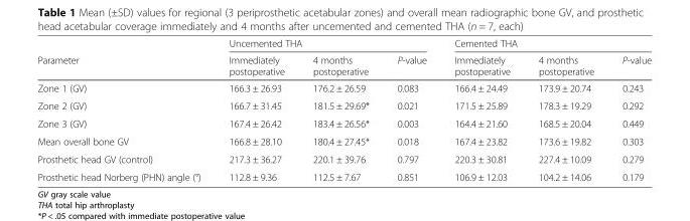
<table><thead><tr><td rowspan="2">Parameter</td><td colspan="3">Uncemented THA</td><td colspan="3">Cemented THA</td></tr><tr><td>Immediately postoperative</td><td>4 months postoperative</td><td>P-value</td><td>Immediately postoperative</td><td>4 months postoperative</td><td>P-value</td></tr></thead><tbody><tr><td>Zone 1 (GV)</td><td>166.3 ± 26.93</td><td>176.2 ± 26.59</td><td>0.083</td><td>166.4 ± 24.49</td><td>173.9 ± 20.74</td><td>0.243</td></tr><tr><td>Zone 2 (GV)</td><td>166.7 ± 31.45</td><td>181.5 ± 29.69*</td><td>0.021</td><td>171.5 ± 25.89</td><td>178.3 ± 19.29</td><td>0.292</td></tr><tr><td>Zone 3 (GV)</td><td>167.4 ± 26.42</td><td>183.4 ± 26.56*</td><td>0.003</td><td>164.4 ± 21.60</td><td>168.5 ± 20.04</td><td>0.449</td></tr><tr><td>Mean overall bone GV</td><td>166.8 ± 28.10</td><td>180.4 ± 27.45*</td><td>0.018</td><td>167.4 ± 23.82</td><td>173.6 ± 19.82</td><td>0.303</td></tr><tr><td>Prosthetic head GV (control)</td><td>217.3 ± 36.27</td><td>220.1 ± 39.76</td><td>0.797</td><td>220.3 ± 30.81</td><td>227.4 ± 10.09</td><td>0.279</td></tr><tr><td>Prosthetic head Norberg (PHN) angle (°)</td><td>112.8 ± 9.36</td><td>112.5 ± 7.67</td><td>0.851</td><td>106.9 ± 12.03</td><td>104.2 ± 14.06</td><td>0.179</td></tr></tbody></table>